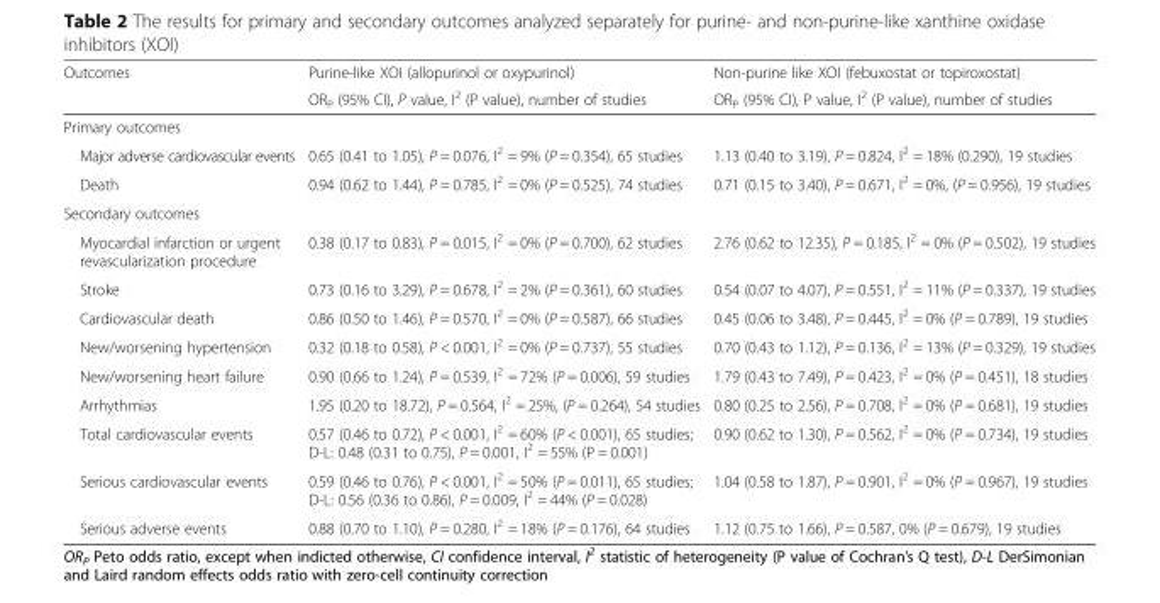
<table><thead><tr><td rowspan="2">Outcomes</td><td rowspan="2">Purine-like XOI (allopurinol or oxypurinol) ORP (95% CI), P value, I2 (P value), number of studies</td><td rowspan="2">Non-purine like XOI (febuxostat or topiroxostat) ORP (95% CI), P value, I2 (P value), number of studies</td></tr><tr></tr></thead><tbody><tr><td colspan="3">Primary outcomes</td></tr><tr><td>Major adverse cardiovascular events</td><td>0.65 (0.41 to 1.05), P = 0.076, I<sup>2</sup> = 9% (P = 0.354), 65 studies</td><td>1.13 (0.40 to 3.19), P = 0.824, I<sup>2</sup> = 18% (0.290), 19 studies</td></tr><tr><td>Death</td><td>0.94 (0.62 to 1.44), P = 0.785, I<sup>2</sup> = 0% (P = 0.525), 74 studies</td><td>0.71 (0.15 to 3.40), P = 0.671, I<sup>2</sup> = 0%, (P = 0.956), 19 studies</td></tr><tr><td colspan="3">Secondary outcomes</td></tr><tr><td>Myocardial infarction or urgent revascularization procedure</td><td>0.38 (0.17 to 0.83), P = 0.015, I<sup>2</sup> = 0% (P = 0.700), 62 studies</td><td>2.76 (0.62 to 12.35), P = 0.185, I<sup>2</sup> = 0% (P = 0.502), 19 studies</td></tr><tr><td>Stroke</td><td>0.73 (0.16 to 3.29), P = 0.678, I<sup>2</sup> = 2% (P = 0.361), 60 studies</td><td>0.54 (0.07 to 4.07), P = 0.551, I<sup>2</sup> = 11% (P = 0.337), 19 studies</td></tr><tr><td>Cardiovascular death</td><td>0.86 (0.50 to 1.46), P = 0.570, I<sup>2</sup> = 0% (P = 0.587), 66 studies</td><td>0.45 (0.06 to 3.48), P = 0.445, I<sup>2</sup> = 0% (P = 0.789), 19 studies</td></tr><tr><td>New/worsening hypertension</td><td>0.32 (0.18 to 0.58), P &lt; 0.001, I<sup>2</sup> = 0% (P = 0.737), 55 studies</td><td>0.70 (0.43 to 1.12), P = 0.136, I<sup>2</sup> = 13% (P = 0.329), 19 studies</td></tr><tr><td>New/worsening heart failure</td><td>0.90 (0.66 to 1.24), P = 0.539, I<sup>2</sup> = 72% (P = 0.006), 59 studies</td><td>1.79 (0.43 to 7.49), P = 0.423, I<sup>2</sup> = 0% (P = 0.451), 18 studies</td></tr><tr><td>Arrhythmias</td><td>1.95 (0.20 to 18.72), P = 0.564, I<sup>2</sup> = 25%, (P = 0.264), 54 studies</td><td>0.80 (0.25 to 2.56), P = 0.708, I<sup>2</sup> = 0% (P = 0.681), 19 studies</td></tr><tr><td>Total cardiovascular events</td><td>0.57 (0.46 to 0.72), P &lt; 0.001, I<sup>2</sup> = 60% (P &lt; 0.001), 65 studies; D-L: 0.48 (0.31 to 0.75), P = 0.001, I<sup>2</sup> = 55% (P = 0.001)</td><td>0.90 (0.62 to 1.30), P = 0.562, I<sup>2</sup> = 0% (P = 0.734), 19 studies</td></tr><tr><td>Serious cardiovascular events</td><td>0.59 (0.46 to 0.76), P &lt; 0.001, I<sup>2</sup> = 50% (P = 0.011), 65 studies; D-L: 0.56 (0.36 to 0.86), P = 0.009, I<sup>2</sup> = 44% (P = 0.028)</td><td>1.04 (0.58 to 1.87), P = 0.901, I<sup>2</sup> = 0% (P = 0.967), 19 studies</td></tr><tr><td>Serious adverse events</td><td>0.88 (0.70 to 1.10), P = 0.280, I<sup>2</sup> = 18% (P = 0.176), 64 studies</td><td>1.12 (0.75 to 1.66), P = 0.587, 0% (P = 0.679), 19 studies</td></tr></tbody></table>